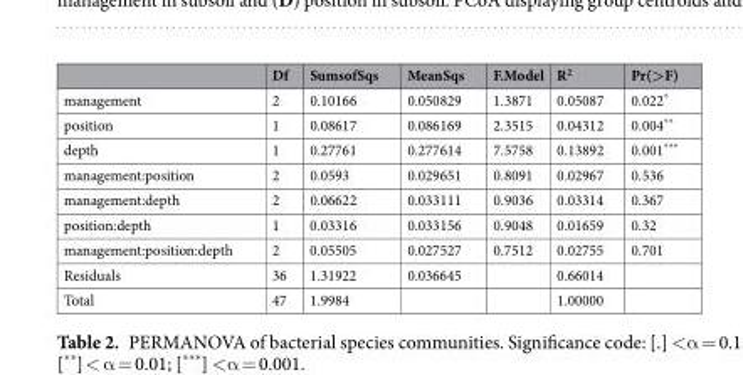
<table><thead><tr><td></td><td>Df</td><td>SumsofSqs</td><td>MeanSqs</td><td>F.Model</td><td>R<sup>2</sup></td><td>Pr(&gt;F)</td></tr></thead><tbody><tr><td>management</td><td>2</td><td>0.10166</td><td>0.050829</td><td>1.3871</td><td>0.05087</td><td>0.022*</td></tr><tr><td>position</td><td>1</td><td>0.08617</td><td>0.086169</td><td>2.3515</td><td>0.04312</td><td>0.004**</td></tr><tr><td>depth</td><td>1</td><td>0.27761</td><td>0.277614</td><td>7.5758</td><td>0.13892</td><td>0.001***</td></tr><tr><td>management:position</td><td>2</td><td>0.0593</td><td>0.029651</td><td>0.8091</td><td>0.02967</td><td>0.536</td></tr><tr><td>management:depth</td><td>2</td><td>0.06622</td><td>0.033111</td><td>0.9036</td><td>0.03314</td><td>0.367</td></tr><tr><td>position:depth</td><td>1</td><td>0.03316</td><td>0.033156</td><td>0.9048</td><td>0.01659</td><td>0.32</td></tr><tr><td>management:position:depth</td><td>2</td><td>0.05505</td><td>0.027527</td><td>0.7512</td><td>0.02755</td><td>0.701</td></tr><tr><td>Residuals</td><td>36</td><td>1.31922</td><td>0.036645</td><td></td><td>0.66014</td><td></td></tr><tr><td>Total</td><td>47</td><td>1.9984</td><td></td><td></td><td>1.00000</td><td></td></tr></tbody></table>